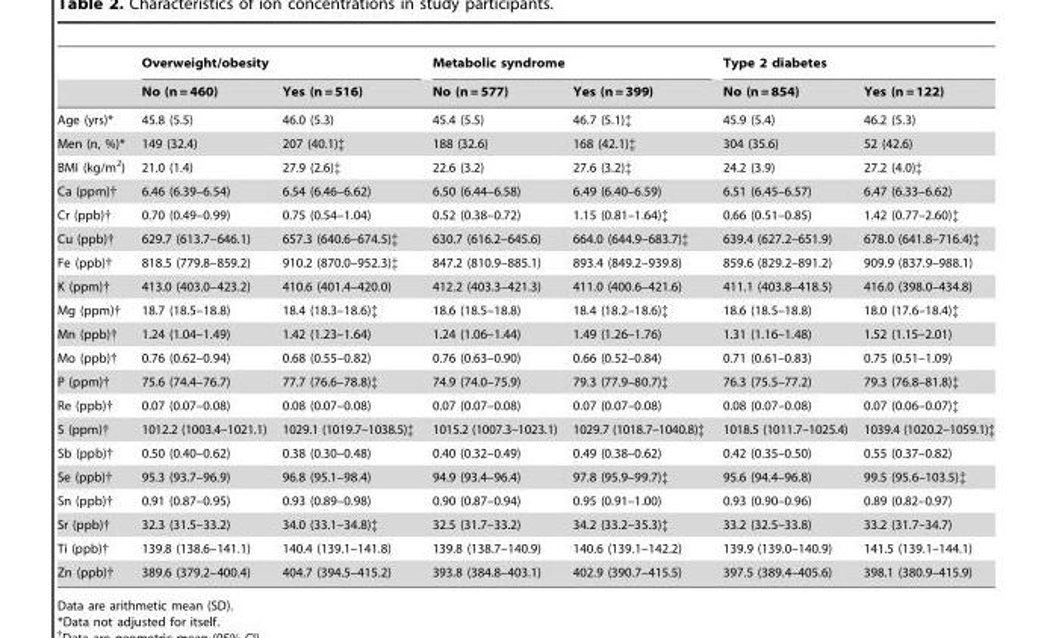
<table><thead><tr><td rowspan="2"></td><td colspan="2">Overweight/obesity</td><td colspan="2">Metabolic syndrome</td><td colspan="2">Type 2 diabetes</td></tr><tr><td>No (n = 460)</td><td>Yes (n = 516)</td><td>No (n = 577)</td><td>Yes (n = 399)</td><td>No (n = 854)</td><td>Yes (n = 122)</td></tr></thead><tbody><tr><td>Age (yrs)*</td><td>45.8 (5.5)</td><td>46.0 (5.3)</td><td>45.4 (5.5)</td><td>46.7 (5.1)‡</td><td>45.9 (5.4)</td><td>46.2 (5.3)</td></tr><tr><td>Men (n, %)*</td><td>149 (32.4)</td><td>207 (40.1)‡</td><td>188 (32.6)</td><td>168 (42.1)‡</td><td>304 (35.6)</td><td>52 (42.6)</td></tr><tr><td>BMI (kg/m<sup>2</sup>)</td><td>21.0 (1.4)</td><td>27.9 (2.6)‡</td><td>22.6 (3.2)</td><td>27.6 (3.2)‡</td><td>24.2 (3.9)</td><td>27.2 (4.0)‡</td></tr><tr><td>Ca (ppm)†</td><td>6.46 (6.39–6.54)</td><td>6.54 (6.46–6.62)</td><td>6.50 (6.44–6.58)</td><td>6.49 (6.40–6.59)</td><td>6.51 (6.45–6.57)</td><td>6.47 (6.33–6.62)</td></tr><tr><td>Cr (ppb)†</td><td>0.70 (0.49–0.99)</td><td>0.75 (0.54–1.04)</td><td>0.52 (0.38–0.72)</td><td>1.15 (0.81–1.64)‡</td><td>0.66 (0.51–0.85)</td><td>1.42 (0.77–2.60)‡</td></tr><tr><td>Cu (ppb)†</td><td>629.7 (613.7–646.1)</td><td>657.3 (640.6–674.5)‡</td><td>630.7 (616.2–645.6)</td><td>664.0 (644.9–683.7)‡</td><td>639.4 (627.2–651.9)</td><td>678.0 (641.8–716.4)‡</td></tr><tr><td>Fe (ppb)†</td><td>818.5 (779.8–859.2)</td><td>910.2 (870.0–952.3)‡</td><td>847.2 (810.9–885.1)</td><td>893.4 (849.2–939.8)</td><td>859.6 (829.2–891.2)</td><td>909.9 (837.9–988.1)</td></tr><tr><td>K (ppm)†</td><td>413.0 (403.0–423.2)</td><td>410.6 (401.4–420.0)</td><td>412.2 (403.3–421.3)</td><td>411.0 (400.6–421.6)</td><td>411.1 (403.8–418.5)</td><td>416.0 (398.0–434.8)</td></tr><tr><td>Mg (ppm)†</td><td>18.7 (18.5–18.8)</td><td>18.4 (18.3–18.6)‡</td><td>18.6 (18.5–18.8)</td><td>18.4 (18.2–18.6)‡</td><td>18.6 (18.5–18.8)</td><td>18.0 (17.6–18.4)‡</td></tr><tr><td>Mn (ppb)†</td><td>1.24 (1.04–1.49)</td><td>1.42 (1.23–1.64)</td><td>1.24 (1.06–1.44)</td><td>1.49 (1.26–1.76)</td><td>1.31 (1.16–1.48)</td><td>1.52 (1.15–2.01)</td></tr><tr><td>Mo (ppb)†</td><td>0.76 (0.62–0.94)</td><td>0.68 (0.55–0.82)</td><td>0.76 (0.63–0.90)</td><td>0.66 (0.52–0.84)</td><td>0.71 (0.61–0.83)</td><td>0.75 (0.51–1.09)</td></tr><tr><td>P (ppm)†</td><td>75.6 (74.4–76.7)</td><td>77.7 (76.6–78.8)‡</td><td>74.9 (74.0–75.9)</td><td>79.3 (77.9–80.7)‡</td><td>76.3 (75.5–77.2)</td><td>79.3 (76.8–81.8)‡</td></tr><tr><td>Re (ppb)†</td><td>0.07 (0.07–0.08)</td><td>0.08 (0.07–0.08)</td><td>0.07 (0.07–0.08)</td><td>0.07 (0.07–0.08)</td><td>0.08 (0.07–0.08)</td><td>0.07 (0.06–0.07)‡</td></tr><tr><td>S (ppm)†</td><td>1012.2 (1003.4–1021.1)</td><td>1029.1 (1019.7–1038.5)‡</td><td>1015.2 (1007.3–1023.1)</td><td>1029.7 (1018.7–1040.8)‡</td><td>1018.5 (1011.7–1025.4)</td><td>1039.4 (1020.2–1059.1)‡</td></tr><tr><td>Sb (ppb)†</td><td>0.50 (0.40–0.62)</td><td>0.38 (0.30–0.48)</td><td>0.40 (0.32–0.49)</td><td>0.49 (0.38–0.62)</td><td>0.42 (0.35–0.50)</td><td>0.55 (0.37–0.82)</td></tr><tr><td>Se (ppb)†</td><td>95.3 (93.7–96.9)</td><td>96.8 (95.1–98.4)</td><td>94.9 (93.4–96.4)</td><td>97.8 (95.9–99.7)‡</td><td>95.6 (94.4–96.8)</td><td>99.5 (95.6–103.5)‡</td></tr><tr><td>Sn (ppb)†</td><td>0.91 (0.87–0.95)</td><td>0.93 (0.89–0.98)</td><td>0.90 (0.87–0.94)</td><td>0.95 (0.91–1.00)</td><td>0.93 (0.90–0.96)</td><td>0.89 (0.82–0.97)</td></tr><tr><td>Sr (ppb)†</td><td>32.3 (31.5–33.2)</td><td>34.0 (33.1–34.8)‡</td><td>32.5 (31.7–33.2)</td><td>34.2 (33.2–35.3)‡</td><td>33.2 (32.5–33.8)</td><td>33.2 (31.7–34.7)</td></tr><tr><td>Ti (ppb)†</td><td>139.8 (138.6–141.1)</td><td>140.4 (139.1–141.8)</td><td>139.8 (138.7–140.9)</td><td>140.6 (139.1–142.2)</td><td>139.9 (139.0–140.9)</td><td>141.5 (139.1–144.1)</td></tr><tr><td>Zn (ppb)†</td><td>389.6 (379.2–400.4)</td><td>404.7 (394.5–415.2)</td><td>393.8 (384.8–403.1)</td><td>402.9 (390.7–415.5)</td><td>397.5 (389.4–405.6)</td><td>398.1 (380.9–415.9)</td></tr></tbody></table>